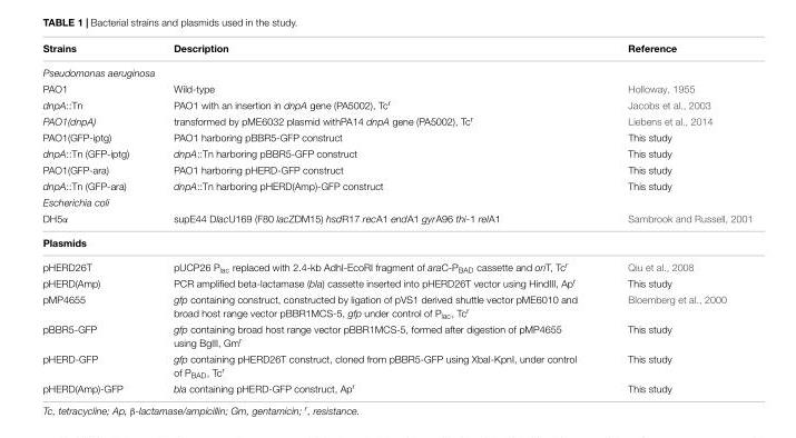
<table><thead><tr><td>Strains</td><td>Description</td><td>Reference</td></tr></thead><tbody><tr><td colspan="3">Pseudomonas aeruginosa</td></tr><tr><td>PAO1</td><td>Wild-type</td><td>Holloway, 1955</td></tr><tr><td>dnpA::Tn</td><td>PAO1 with an insertion in dnpA gene (PA5002), Tc<sup>r</sup></td><td>Jacobs et al., 2003</td></tr><tr><td>PAO1(dnpA)</td><td>transformed by pME6032 plasmid withPA14 dnpA gene (PA5002), Tc<sup>r</sup></td><td>Liebens et al., 2014</td></tr><tr><td>PAO1(GFP-iptg)</td><td>PAO1 harboring pBBR5-GFP construct</td><td>This study</td></tr><tr><td>dnpA::Tn (GFP-iptg)</td><td>dnpA::Tn harboring pBBR5-GFP construct</td><td>This study</td></tr><tr><td>PAO1(GFP-ara)</td><td>PAO1 harboring pHERD-GFP construct</td><td>This study</td></tr><tr><td>dnpA::Tn (GFP-ara)</td><td>dnpA::Tn harboring pHERD(Amp)-GFP construct</td><td>This study</td></tr><tr><td colspan="3">Escherichia coli</td></tr><tr><td>DH5α</td><td>supE44 DlacU169 (F80 lacZDM15) hsdR17 recA1 endA1 gyrA96 thi-1 relA1</td><td>Sambrook and Russell, 2001</td></tr><tr><td colspan="3">Plasmids</td></tr><tr><td>pHERD26T</td><td>pUCP26 P<sub>lac</sub> replaced with 2.4-kb AdhI-EcoRI fragment of araC-P<sub>BAD</sub> cassette and oriT, Tc<sup>r</sup></td><td>Qiu et al., 2008</td></tr><tr><td>pHERD(Amp)</td><td>PCR amplified beta-lactamase (bla) cassette inserted into pHERD26T vector using HindIII, Ap<sup>r</sup></td><td>This study</td></tr><tr><td>pMP4655</td><td>gfp containing construct, constructed by ligation of pVS1 derived shuttle vector pME6010 and broad host range vector pBBR1MCS-5, gfp under control of P<sub>lac</sub>, Tc<sup>r</sup></td><td>Bloemberg et al., 2000</td></tr><tr><td>pBBR5-GFP</td><td>gfp containing broad host range vector pBBR1MCS-5, formed after digestion of pMP4655 using BglII, Gm<sup>r</sup></td><td>This study</td></tr><tr><td>pHERD-GFP</td><td>gfp containing pHERD26T construct, cloned from pBBR5-GFP using XbaI-KpnI, under control of P<sub>BAD</sub>, Tc<sup>r</sup></td><td>This study</td></tr><tr><td>pHERD(Amp)-GFP</td><td>bla containing pHERD-GFP construct, Ap<sup>r</sup></td><td>This study</td></tr></tbody></table>